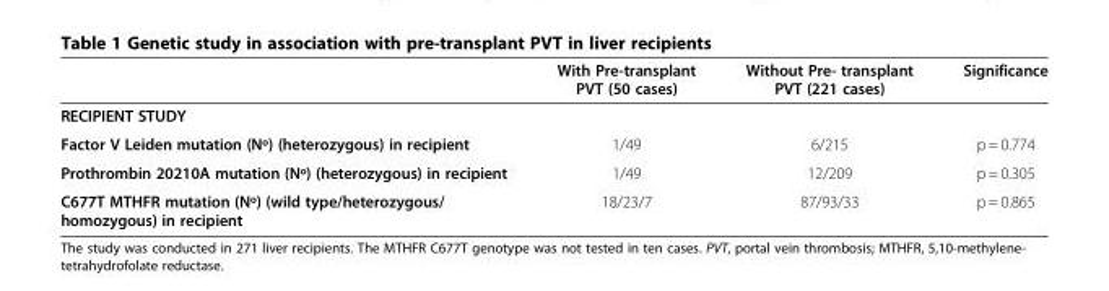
<table><thead><tr><td></td><td>With Pre-transplant PVT (50 cases)</td><td>Without Pre- transplant PVT (221 cases)</td><td>Significance</td></tr></thead><tbody><tr><td colspan="4">RECIPIENT STUDY</td></tr><tr><td>Factor V Leiden mutation (Nº) (heterozygous) in recipient</td><td>1/49</td><td>6/215</td><td>p = 0.774</td></tr><tr><td>Prothrombin 20210A mutation (Nº) (heterozygous) in recipient</td><td>1/49</td><td>12/209</td><td>p = 0.305</td></tr><tr><td>C677T MTHFR mutation (Nº) (wild type/heterozygous/ homozygous) in recipient</td><td>18/23/7</td><td>87/93/33</td><td>p = 0.865</td></tr></tbody></table>